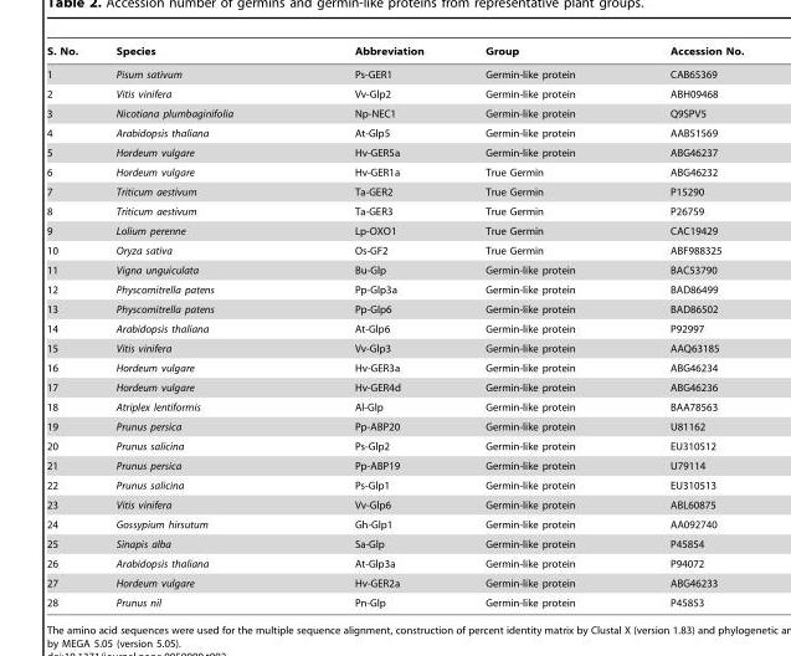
<table><thead><tr><td>S. No.</td><td>Species</td><td>Abbreviation</td><td>Group</td><td>Accession No.</td></tr></thead><tbody><tr><td>1</td><td>Pisum sativum</td><td>Ps-GER1</td><td>Germin-like protein</td><td>CAB65369</td></tr><tr><td>2</td><td>Vitis vinifera</td><td>Vv-Glp2</td><td>Germin-like protein</td><td>ABH09468</td></tr><tr><td>3</td><td>Nicotiana plumbaginifolia</td><td>Np-NEC1</td><td>Germin-like protein</td><td>Q9SPV5</td></tr><tr><td>4</td><td>Arabidopsis thaliana</td><td>At-Glp5</td><td>Germin-like protein</td><td>AAB51569</td></tr><tr><td>5</td><td>Hordeum vulgare</td><td>Hv-GER5a</td><td>Germin-like protein</td><td>ABG46237</td></tr><tr><td>6</td><td>Hordeum vulgare</td><td>Hv-GER1a</td><td>True Germin</td><td>ABG46232</td></tr><tr><td>7</td><td>Triticum aestivum</td><td>Ta-GER2</td><td>True Germin</td><td>P15290</td></tr><tr><td>8</td><td>Triticum aestivum</td><td>Ta-GER3</td><td>True Germin</td><td>P26759</td></tr><tr><td>9</td><td>Lolium perenne</td><td>Lp-OXO1</td><td>True Germin</td><td>CAC19429</td></tr><tr><td>10</td><td>Oryza sativa</td><td>Os-GF2</td><td>True Germin</td><td>ABF988325</td></tr><tr><td>11</td><td>Vigna unguiculata</td><td>Bu-Glp</td><td>Germin-like protein</td><td>BAC53790</td></tr><tr><td>12</td><td>Physcomitrella patens</td><td>Pp-Glp3a</td><td>Germin-like protein</td><td>BAD86499</td></tr><tr><td>13</td><td>Physcomitrella patens</td><td>Pp-Glp6</td><td>Germin-like protein</td><td>BAD86502</td></tr><tr><td>14</td><td>Arabidopsis thaliana</td><td>At-Glp6</td><td>Germin-like protein</td><td>P92997</td></tr><tr><td>15</td><td>Vitis vinifera</td><td>Vv-Glp3</td><td>Germin-like protein</td><td>AAQ63185</td></tr><tr><td>16</td><td>Hordeum vulgare</td><td>Hv-GER3a</td><td>Germin-like protein</td><td>ABG46234</td></tr><tr><td>17</td><td>Hordeum vulgare</td><td>Hv-GER4d</td><td>Germin-like protein</td><td>ABG46236</td></tr><tr><td>18</td><td>Atriplex lentiformis</td><td>Al-Glp</td><td>Germin-like protein</td><td>BAA78563</td></tr><tr><td>19</td><td>Prunus persica</td><td>Pp-ABP20</td><td>Germin-like protein</td><td>U81162</td></tr><tr><td>20</td><td>Prunus salicina</td><td>Ps-Glp2</td><td>Germin-like protein</td><td>EU310512</td></tr><tr><td>21</td><td>Prunus persica</td><td>Pp-ABP19</td><td>Germin-like protein</td><td>U79114</td></tr><tr><td>22</td><td>Prunus salicina</td><td>Ps-Glp1</td><td>Germin-like protein</td><td>EU310513</td></tr><tr><td>23</td><td>Vitis vinifera</td><td>Vv-Glp6</td><td>Germin-like protein</td><td>ABL60875</td></tr><tr><td>24</td><td>Gossypium hirsutum</td><td>Gh-Glp1</td><td>Germin-like protein</td><td>AA092740</td></tr><tr><td>25</td><td>Sinapis alba</td><td>Sa-Glp</td><td>Germin-like protein</td><td>P45854</td></tr><tr><td>26</td><td>Arabidopsis thaliana</td><td>At-Glp3a</td><td>Germin-like protein</td><td>P94072</td></tr><tr><td>27</td><td>Hordeum vulgare</td><td>Hv-GER2a</td><td>Germin-like protein</td><td>ABG46233</td></tr><tr><td>28</td><td>Prunus nil</td><td>Pn-Glp</td><td>Germin-like protein</td><td>P45853</td></tr></tbody></table>